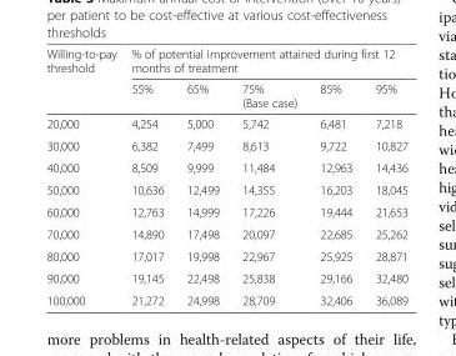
<table><thead><tr><td rowspan="2">Willing-to-pay threshold</td><td colspan="5">% of potential improvement attained during first 12 months of treatment</td></tr><tr><td>55%</td><td>65%</td><td>75% (Base case)</td><td>85%</td><td>95%</td></tr></thead><tbody><tr><td>20,000</td><td>4,254</td><td>5,000</td><td>5,742</td><td>6,481</td><td>7,218</td></tr><tr><td>30,000</td><td>6,382</td><td>7,499</td><td>8,613</td><td>9,722</td><td>10,827</td></tr><tr><td>40,000</td><td>8,509</td><td>9,999</td><td>11,484</td><td>12,963</td><td>14,436</td></tr><tr><td>50,000</td><td>10,636</td><td>12,499</td><td>14,355</td><td>16,203</td><td>18,045</td></tr><tr><td>60,000</td><td>12,763</td><td>14,999</td><td>17,226</td><td>19,444</td><td>21,653</td></tr><tr><td>70,000</td><td>14,890</td><td>17,498</td><td>20,097</td><td>22,685</td><td>25,262</td></tr><tr><td>80,000</td><td>17,017</td><td>19,998</td><td>22,967</td><td>25,925</td><td>28,871</td></tr><tr><td>90,000</td><td>19,145</td><td>22,498</td><td>25,838</td><td>29,166</td><td>32,480</td></tr><tr><td>100,000</td><td>21,272</td><td>24,998</td><td>28,709</td><td>32,406</td><td>36,089</td></tr></tbody></table>